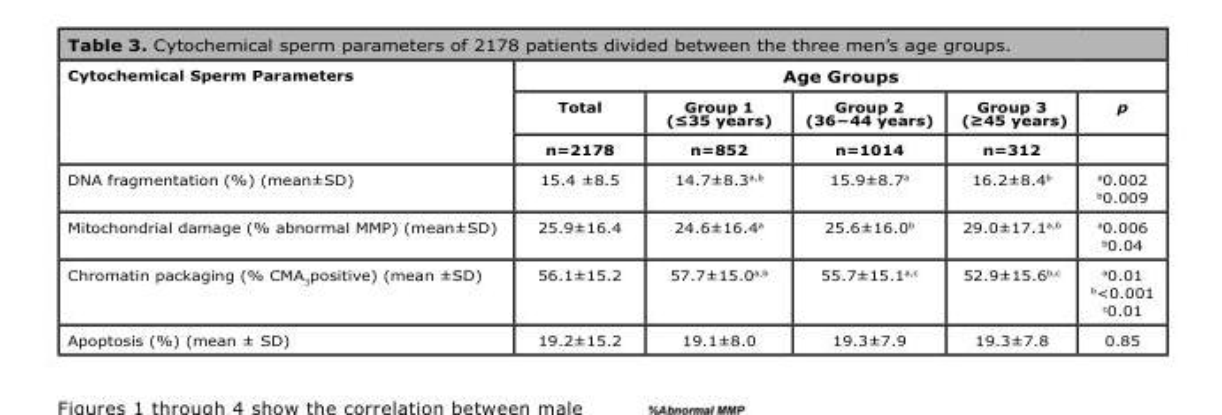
<table><thead><tr><td rowspan="3">Cytochemical Sperm Parameters</td><td colspan="5">Age Groups</td></tr><tr><td rowspan="2">Total n=2178</td><td rowspan="2">Group 1 (≤35 years) n=852</td><td rowspan="2">Group 2 (36−44 years) n=1014</td><td rowspan="2">Group 3 (≥45 years) n=312</td><td rowspan="2">p</td></tr><tr></tr></thead><tbody><tr><td>DNA fragmentation (%) (mean±SD)</td><td>15.4 ±8.5</td><td>14.7±8.3<sup>a,b</sup></td><td>15.9±8.7<sup>a</sup></td><td>16.2±8.4<sup>b</sup></td><td><sup>a</sup>0.002 <sup>b</sup>0.009</td></tr><tr><td>Mitochondrial damage (% abnormal MMP) (mean±SD)</td><td>25.9±16.4</td><td>24.6±16.4<sup>a</sup></td><td>25.6±16.0<sup>b</sup></td><td>29.0±17.1<sup>a,b</sup></td><td><sup>a</sup>0.006 <sup>b</sup>0.04</td></tr><tr><td>Chromatin packaging (% CMA<sub>3</sub>positive) (mean ±SD)</td><td>56.1±15.2</td><td>57.7±15.0<sup>a,b</sup></td><td>55.7±15.1<sup>a,c</sup></td><td>52.9±15.6<sup>b,c</sup></td><td><sup>a</sup>0.01 <sup>b</sup>&lt;0.001 <sup>c</sup>0.01</td></tr><tr><td>Apoptosis (%) (mean ± SD)</td><td>19.2±15.2</td><td>19.1±8.0</td><td>19.3±7.9</td><td>19.3±7.8</td><td>0.85</td></tr></tbody></table>